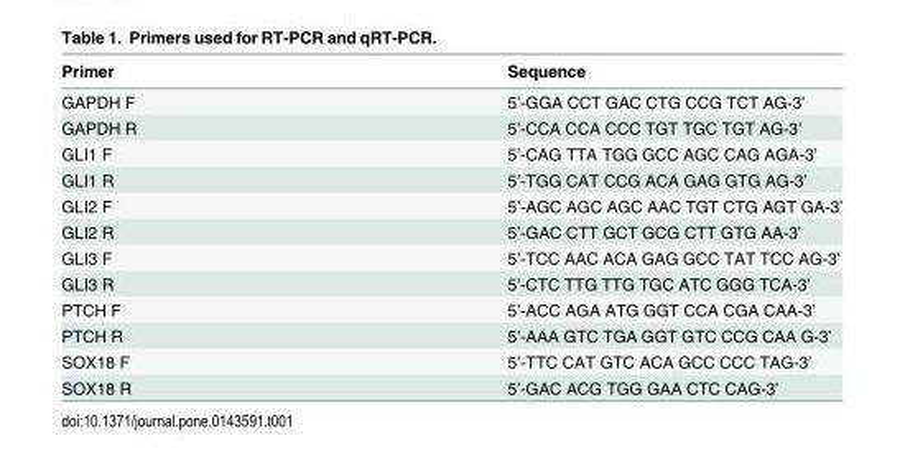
<table><thead><tr><td>Primer</td><td>Sequence</td></tr></thead><tbody><tr><td>GAPDH F</td><td>5’-GGA CCT GAC CTG CCG TCT AG-3’</td></tr><tr><td>GAPDH R</td><td>5’-CCA CCA CCC TGT TGC TGT AG-3’</td></tr><tr><td>GLI1 F</td><td>5’-CAG TTA TGG GCC AGC CAG AGA-3’</td></tr><tr><td>GLI1 R</td><td>5’-TGG CAT CCG ACA GAG GTG AG-3’</td></tr><tr><td>GLI2 F</td><td>5’-AGC AGC AGC AAC TGT CTG AGT GA-3’</td></tr><tr><td>GLI2 R</td><td>5’-GAC CTT GCT GCG CTT GTG AA-3’</td></tr><tr><td>GLI3 F</td><td>5’-TCC AAC ACA GAG GCC TAT TCC AG-3’</td></tr><tr><td>GLI3 R</td><td>5’-CTC TTG TTG TGC ATC GGG TCA-3’</td></tr><tr><td>PTCH F</td><td>5’-ACC AGA ATG GGT CCA CGA CAA-3’</td></tr><tr><td>PTCH R</td><td>5’-AAA GTC TGA GGT GTC CCG CAA G-3’</td></tr><tr><td>SOX18 F</td><td>5’-TTC CAT GTC ACA GCC CCC TAG-3’</td></tr><tr><td>SOX18 R</td><td>5’-GAC ACG TGG GAA CTC CAG-3’</td></tr></tbody></table>